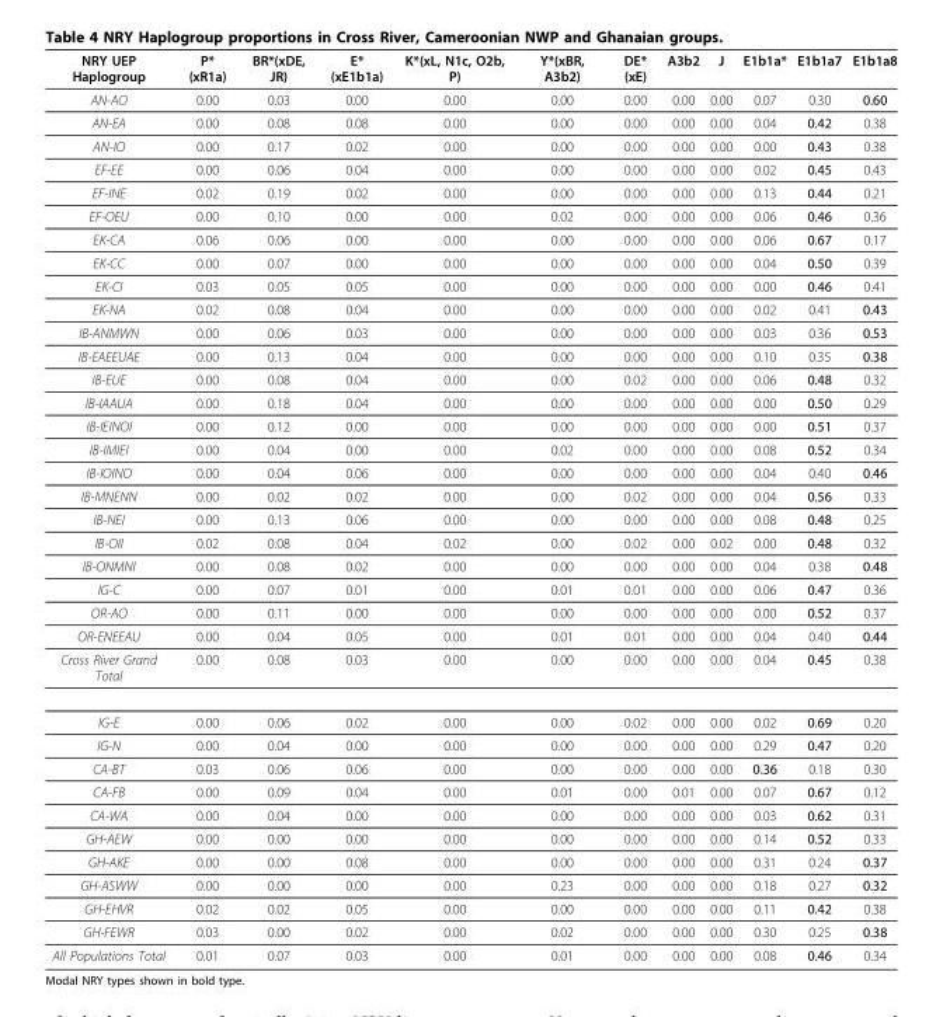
<table><thead><tr><td>NRY UEP Haplogroup</td><td>P* (xR1a)</td><td>BR*(xDE, JR)</td><td>E* (xE1b1a)</td><td>K*(xL, N1c, O2b, P)</td><td>Y*(xBR, A3b2)</td><td>DE* (xE)</td><td>A3b2</td><td>J</td><td>E1b1a*</td><td>E1b1a7</td><td>E1b1a8</td></tr></thead><tbody><tr><td>AN-AO</td><td>0.00</td><td>0.03</td><td>0.00</td><td>0.00</td><td>0.00</td><td>0.00</td><td>0.00</td><td>0.00</td><td>0.07</td><td>0.30</td><td>0.60</td></tr><tr><td>AN-EA</td><td>0.00</td><td>0.08</td><td>0.08</td><td>0.00</td><td>0.00</td><td>0.00</td><td>0.00</td><td>0.00</td><td>0.04</td><td>0.42</td><td>0.38</td></tr><tr><td>AN-IO</td><td>0.00</td><td>0.17</td><td>0.02</td><td>0.00</td><td>0.00</td><td>0.00</td><td>0.00</td><td>0.00</td><td>0.00</td><td>0.43</td><td>0.38</td></tr><tr><td>EF-EE</td><td>0.00</td><td>0.06</td><td>0.04</td><td>0.00</td><td>0.00</td><td>0.00</td><td>0.00</td><td>0.00</td><td>0.02</td><td>0.45</td><td>0.43</td></tr><tr><td>EF-INE</td><td>0.02</td><td>0.19</td><td>0.02</td><td>0.00</td><td>0.00</td><td>0.00</td><td>0.00</td><td>0.00</td><td>0.13</td><td>0.44</td><td>0.21</td></tr><tr><td>EF-OEU</td><td>0.00</td><td>0.10</td><td>0.00</td><td>0.00</td><td>0.02</td><td>0.00</td><td>0.00</td><td>0.00</td><td>0.06</td><td>0.46</td><td>0.36</td></tr><tr><td>EK-CA</td><td>0.06</td><td>0.06</td><td>0.00</td><td>0.00</td><td>0.00</td><td>0.00</td><td>0.00</td><td>0.00</td><td>0.06</td><td>0.67</td><td>0.17</td></tr><tr><td>EK-CC</td><td>0.00</td><td>0.07</td><td>0.00</td><td>0.00</td><td>0.00</td><td>0.00</td><td>0.00</td><td>0.00</td><td>0.04</td><td>0.50</td><td>0.39</td></tr><tr><td>EK-CI</td><td>0.03</td><td>0.05</td><td>0.05</td><td>0.00</td><td>0.00</td><td>0.00</td><td>0.00</td><td>0.00</td><td>0.00</td><td>0.46</td><td>0.41</td></tr><tr><td>EK-NA</td><td>0.02</td><td>0.08</td><td>0.04</td><td>0.00</td><td>0.00</td><td>0.00</td><td>0.00</td><td>0.00</td><td>0.02</td><td>0.41</td><td>0.43</td></tr><tr><td>IB-ANMWN</td><td>0.00</td><td>0.06</td><td>0.03</td><td>0.00</td><td>0.00</td><td>0.00</td><td>0.00</td><td>0.00</td><td>0.03</td><td>0.36</td><td>0.53</td></tr><tr><td>IB-EAEEUAE</td><td>0.00</td><td>0.13</td><td>0.04</td><td>0.00</td><td>0.00</td><td>0.00</td><td>0.00</td><td>0.00</td><td>0.10</td><td>0.35</td><td>0.38</td></tr><tr><td>IB-EUE</td><td>0.00</td><td>0.08</td><td>0.04</td><td>0.00</td><td>0.00</td><td>0.02</td><td>0.00</td><td>0.00</td><td>0.06</td><td>0.48</td><td>0.32</td></tr><tr><td>IB-IAAUA</td><td>0.00</td><td>0.18</td><td>0.04</td><td>0.00</td><td>0.00</td><td>0.00</td><td>0.00</td><td>0.00</td><td>0.00</td><td>0.50</td><td>0.29</td></tr><tr><td>IB-IEINOI</td><td>0.00</td><td>0.12</td><td>0.00</td><td>0.00</td><td>0.00</td><td>0.00</td><td>0.00</td><td>0.00</td><td>0.00</td><td>0.51</td><td>0.37</td></tr><tr><td>IB-IMIEI</td><td>0.00</td><td>0.04</td><td>0.00</td><td>0.00</td><td>0.02</td><td>0.00</td><td>0.00</td><td>0.00</td><td>0.08</td><td>0.52</td><td>0.34</td></tr><tr><td>IB-IOINO</td><td>0.00</td><td>0.04</td><td>0.06</td><td>0.00</td><td>0.00</td><td>0.00</td><td>0.00</td><td>0.00</td><td>0.04</td><td>0.40</td><td>0.46</td></tr><tr><td>IB-MNENN</td><td>0.00</td><td>0.02</td><td>0.02</td><td>0.00</td><td>0.00</td><td>0.02</td><td>0.00</td><td>0.00</td><td>0.04</td><td>0.56</td><td>0.33</td></tr><tr><td>IB-NEI</td><td>0.00</td><td>0.13</td><td>0.06</td><td>0.00</td><td>0.00</td><td>0.00</td><td>0.00</td><td>0.00</td><td>0.08</td><td>0.48</td><td>0.25</td></tr><tr><td>IB-OII</td><td>0.02</td><td>0.08</td><td>0.04</td><td>0.02</td><td>0.00</td><td>0.02</td><td>0.00</td><td>0.02</td><td>0.00</td><td>0.48</td><td>0.32</td></tr><tr><td>IB-ONMNI</td><td>0.00</td><td>0.08</td><td>0.02</td><td>0.00</td><td>0.00</td><td>0.00</td><td>0.00</td><td>0.00</td><td>0.04</td><td>0.38</td><td>0.48</td></tr><tr><td>IG-C</td><td>0.00</td><td>0.07</td><td>0.01</td><td>0.00</td><td>0.01</td><td>0.01</td><td>0.00</td><td>0.00</td><td>0.06</td><td>0.47</td><td>0.36</td></tr><tr><td>OR-AO</td><td>0.00</td><td>0.11</td><td>0.00</td><td>0.00</td><td>0.00</td><td>0.00</td><td>0.00</td><td>0.00</td><td>0.00</td><td>0.52</td><td>0.37</td></tr><tr><td>OR-ENEEAU</td><td>0.00</td><td>0.04</td><td>0.05</td><td>0.00</td><td>0.01</td><td>0.01</td><td>0.00</td><td>0.00</td><td>0.04</td><td>0.40</td><td>0.44</td></tr><tr><td>Cross River Grand Total</td><td>0.00</td><td>0.08</td><td>0.03</td><td>0.00</td><td>0.00</td><td>0.00</td><td>0.00</td><td>0.00</td><td>0.04</td><td>0.45</td><td>0.38</td></tr><tr><td>IG-E</td><td>0.00</td><td>0.06</td><td>0.02</td><td>0.00</td><td>0.00</td><td>0.02</td><td>0.00</td><td>0.00</td><td>0.02</td><td>0.69</td><td>0.20</td></tr><tr><td>IG-N</td><td>0.00</td><td>0.04</td><td>0.00</td><td>0.00</td><td>0.00</td><td>0.00</td><td>0.00</td><td>0.00</td><td>0.29</td><td>0.47</td><td>0.20</td></tr><tr><td>CA-BT</td><td>0.03</td><td>0.06</td><td>0.06</td><td>0.00</td><td>0.00</td><td>0.00</td><td>0.00</td><td>0.00</td><td>0.36</td><td>0.18</td><td>0.30</td></tr><tr><td>CA-FB</td><td>0.00</td><td>0.09</td><td>0.04</td><td>0.00</td><td>0.01</td><td>0.00</td><td>0.01</td><td>0.00</td><td>0.07</td><td>0.67</td><td>0.12</td></tr><tr><td>CA-WA</td><td>0.00</td><td>0.04</td><td>0.00</td><td>0.00</td><td>0.00</td><td>0.00</td><td>0.00</td><td>0.00</td><td>0.03</td><td>0.62</td><td>0.31</td></tr><tr><td>GH-AEW</td><td>0.00</td><td>0.00</td><td>0.00</td><td>0.00</td><td>0.00</td><td>0.00</td><td>0.00</td><td>0.00</td><td>0.14</td><td>0.52</td><td>0.33</td></tr><tr><td>GH-AKE</td><td>0.00</td><td>0.00</td><td>0.08</td><td>0.00</td><td>0.00</td><td>0.00</td><td>0.00</td><td>0.00</td><td>0.31</td><td>0.24</td><td>0.37</td></tr><tr><td>GH-ASWW</td><td>0.00</td><td>0.00</td><td>0.00</td><td>0.00</td><td>0.23</td><td>0.00</td><td>0.00</td><td>0.00</td><td>0.18</td><td>0.27</td><td>0.32</td></tr><tr><td>GH-EHVR</td><td>0.02</td><td>0.02</td><td>0.05</td><td>0.00</td><td>0.00</td><td>0.00</td><td>0.00</td><td>0.00</td><td>0.11</td><td>0.42</td><td>0.38</td></tr><tr><td>GH-FEWR</td><td>0.03</td><td>0.00</td><td>0.02</td><td>0.00</td><td>0.02</td><td>0.00</td><td>0.00</td><td>0.00</td><td>0.30</td><td>0.25</td><td>0.38</td></tr><tr><td>All Populations Total</td><td>0.01</td><td>0.07</td><td>0.03</td><td>0.00</td><td>0.01</td><td>0.00</td><td>0.00</td><td>0.00</td><td>0.08</td><td>0.46</td><td>0.34</td></tr></tbody></table>